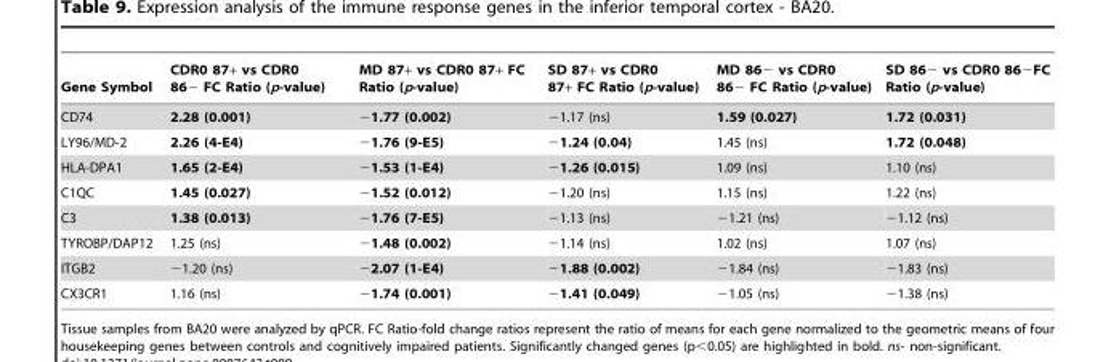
<table><thead><tr><td>Gene Symbol</td><td>CDR0 87+ vs CDR0 86− FC Ratio (p-value)</td><td>MD 87+ vs CDR0 87+ FC Ratio (p-value)</td><td>SD 87+ vs CDR0 87+ FC Ratio (p-value)</td><td>MD 86− vs CDR0 86− FC Ratio (p-value)</td><td>SD 86− vs CDR0 86−FC Ratio (p-value)</td></tr></thead><tbody><tr><td>CD74</td><td>2.28 (0.001)</td><td>−1.77 (0.002)</td><td>−1.17 (ns)</td><td>1.59 (0.027)</td><td>1.72 (0.031)</td></tr><tr><td>LY96/MD-2</td><td>2.26 (4-E4)</td><td>−1.76 (9-E5)</td><td>−1.24 (0.04)</td><td>1.45 (ns)</td><td>1.72 (0.048)</td></tr><tr><td>HLA-DPA1</td><td>1.65 (2-E4)</td><td>−1.53 (1-E4)</td><td>−1.26 (0.015)</td><td>1.09 (ns)</td><td>1.10 (ns)</td></tr><tr><td>C1QC</td><td>1.45 (0.027)</td><td>−1.52 (0.012)</td><td>−1.20 (ns)</td><td>1.15 (ns)</td><td>1.22 (ns)</td></tr><tr><td>C3</td><td>1.38 (0.013)</td><td>−1.76 (7-E5)</td><td>−1.13 (ns)</td><td>−1.21 (ns)</td><td>−1.12 (ns)</td></tr><tr><td>TYROBP/DAP12</td><td>1.25 (ns)</td><td>−1.48 (0.002)</td><td>−1.14 (ns)</td><td>1.02 (ns)</td><td>1.07 (ns)</td></tr><tr><td>ITGB2</td><td>−1.20 (ns)</td><td>−2.07 (1-E4)</td><td>−1.88 (0.002)</td><td>−1.84 (ns)</td><td>−1.83 (ns)</td></tr><tr><td>CX3CR1</td><td>1.16 (ns)</td><td>−1.74 (0.001)</td><td>−1.41 (0.049)</td><td>−1.05 (ns)</td><td>−1.38 (ns)</td></tr></tbody></table>